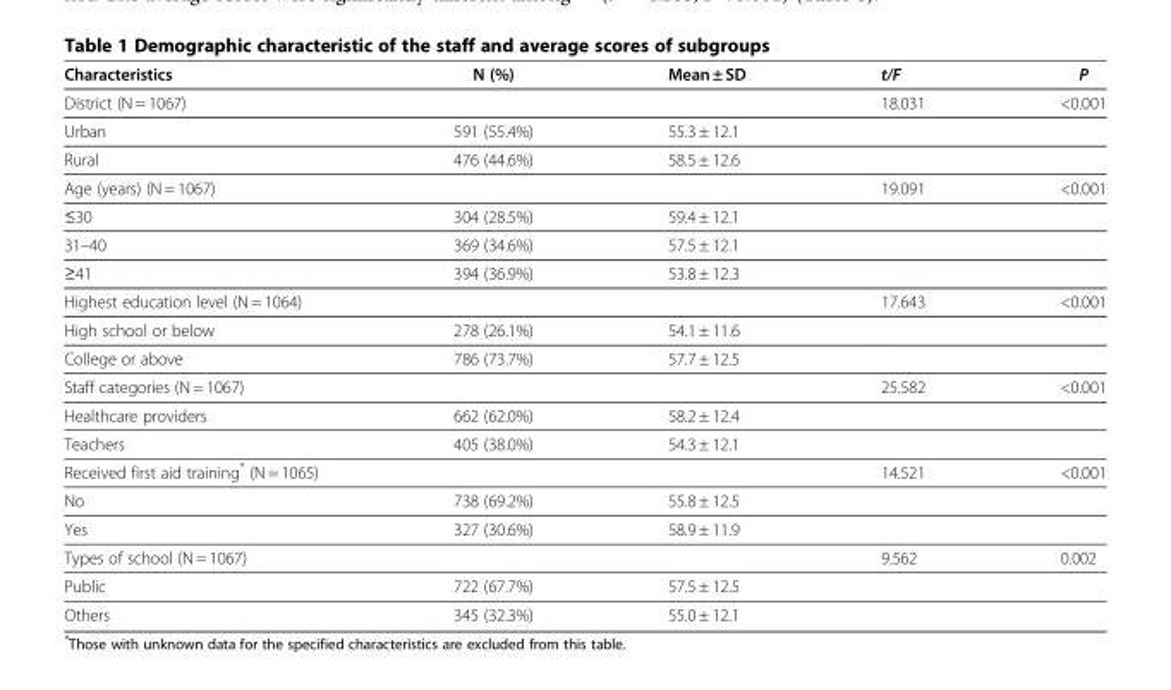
<table><thead><tr><td>Characteristics</td><td>N (%)</td><td>Mean ± SD</td><td>t/F</td><td>P</td></tr></thead><tbody><tr><td>District (N = 1067)</td><td></td><td></td><td>18.031</td><td>&lt;0.001</td></tr><tr><td>Urban</td><td>591 (55.4%)</td><td>55.3 ± 12.1</td><td></td><td></td></tr><tr><td>Rural</td><td>476 (44.6%)</td><td>58.5 ± 12.6</td><td></td><td></td></tr><tr><td>Age (years) (N = 1067)</td><td></td><td></td><td>19.091</td><td>&lt;0.001</td></tr><tr><td>≤30</td><td>304 (28.5%)</td><td>59.4 ± 12.1</td><td></td><td></td></tr><tr><td>31–40</td><td>369 (34.6%)</td><td>57.5 ± 12.1</td><td></td><td></td></tr><tr><td>≥41</td><td>394 (36.9%)</td><td>53.8 ± 12.3</td><td></td><td></td></tr><tr><td>Highest education level (N = 1064)</td><td></td><td></td><td>17.643</td><td>&lt;0.001</td></tr><tr><td>High school or below</td><td>278 (26.1%)</td><td>54.1 ± 11.6</td><td></td><td></td></tr><tr><td>College or above</td><td>786 (73.7%)</td><td>57.7 ± 12.5</td><td></td><td></td></tr><tr><td>Staff categories (N = 1067)</td><td></td><td></td><td>25.582</td><td>&lt;0.001</td></tr><tr><td>Healthcare providers</td><td>662 (62.0%)</td><td>58.2 ± 12.4</td><td></td><td></td></tr><tr><td>Teachers</td><td>405 (38.0%)</td><td>54.3 ± 12.1</td><td></td><td></td></tr><tr><td>Received first aid training* (N = 1065)</td><td></td><td></td><td>14.521</td><td>&lt;0.001</td></tr><tr><td>No</td><td>738 (69.2%)</td><td>55.8 ± 12.5</td><td></td><td></td></tr><tr><td>Yes</td><td>327 (30.6%)</td><td>58.9 ± 11.9</td><td></td><td></td></tr><tr><td>Types of school (N = 1067)</td><td></td><td></td><td>9.562</td><td>0.002</td></tr><tr><td>Public</td><td>722 (67.7%)</td><td>57.5 ± 12.5</td><td></td><td></td></tr><tr><td>Others</td><td>345 (32.3%)</td><td>55.0 ± 12.1</td><td></td><td></td></tr></tbody></table>